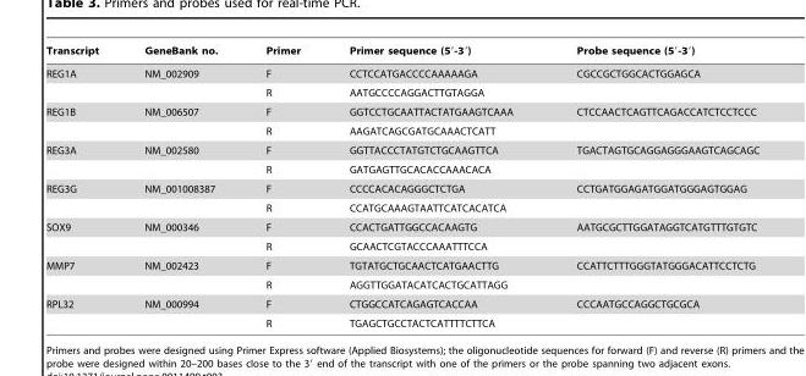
<table><thead><tr><td>Transcript</td><td>GeneBank no.</td><td>Primer</td><td>Primer sequence (5′-3′)</td><td>Probe sequence (5′-3′)</td></tr></thead><tbody><tr><td rowspan="2">REG1A</td><td>NM_002909</td><td>F</td><td>CCTCCATGACCCCAAAAAGA</td><td>CGCCGCTGGCACTGGAGCA</td></tr><tr><td></td><td>R</td><td>AATGCCCCAGGACTTGTAGGA</td><td></td></tr><tr><td rowspan="2">REG1B</td><td>NM_006507</td><td>F</td><td>GGTCCTGCAATTACTATGAAGTCAAA</td><td>CTCCAACTCAGTTCAGACCATCTCCTCCC</td></tr><tr><td></td><td>R</td><td>AAGATCAGCGATGCAAACTCATT</td><td></td></tr><tr><td rowspan="2">REG3A</td><td>NM_002580</td><td>F</td><td>GGTTACCCTATGTCTGCAAGTTCA</td><td>TGACTAGTGCAGGAGGGAAGTCAGCAGC</td></tr><tr><td></td><td>R</td><td>GATGAGTTGCACACCAAACACA</td><td></td></tr><tr><td rowspan="2">REG3G</td><td>NM_001008387</td><td>F</td><td>CCCCACACAGGGCTCTGA</td><td>CCTGATGGAGATGGATGGGAGTGGAG</td></tr><tr><td></td><td>R</td><td>CCATGCAAAGTAATTCATCACATCA</td><td></td></tr><tr><td rowspan="2">SOX9</td><td>NM_000346</td><td>F</td><td>CCACTGATTGGCCACAAGTG</td><td>AATGCGCTTGGATAGGTCATGTTTGTGTC</td></tr><tr><td></td><td>R</td><td>GCAACTCGTACCCAAATTTCCA</td><td></td></tr><tr><td rowspan="2">MMP7</td><td>NM_002423</td><td>F</td><td>TGTATGCTGCAACTCATGAACTTG</td><td>CCATTCTTTGGGTATGGGACATTCCTCTG</td></tr><tr><td></td><td>R</td><td>AGGTTGGATACATCACTGCATTAGG</td><td></td></tr><tr><td rowspan="2">RPL32</td><td>NM_000994</td><td>F</td><td>CTGGCCATCAGAGTCACCAA</td><td>CCCAATGCCAGGCTGCGCA</td></tr><tr><td></td><td>R</td><td>TGAGCTGCCTACTCATTTTCTTCA</td><td></td></tr></tbody></table>